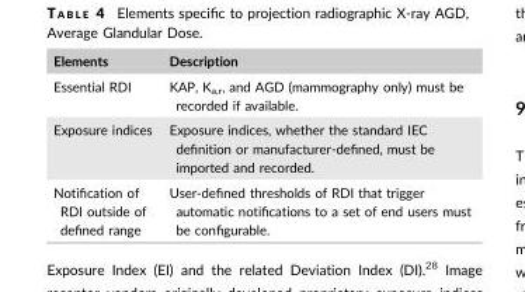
<table><thead><tr><td>Elements</td><td>Description</td></tr></thead><tbody><tr><td>Essential RDI</td><td>KAP, K<sub>a,r</sub>, and AGD (mammography only) must be recorded if available.</td></tr><tr><td>Exposure indices</td><td>Exposure indices, whether the standard IEC definition or manufacturer-defined, must be imported and recorded.</td></tr><tr><td>Notification of RDI outside of defined range</td><td>User-defined thresholds of RDI that trigger automatic notifications to a set of end users must be configurable.</td></tr></tbody></table>